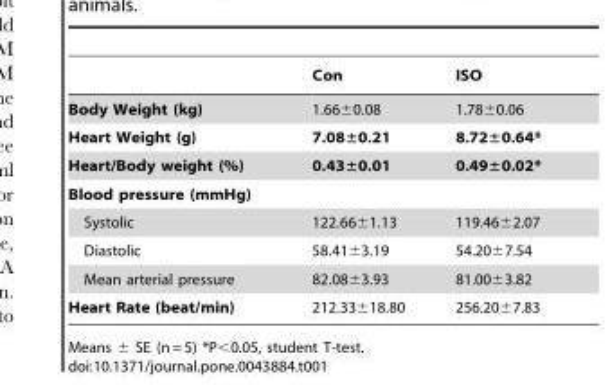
<table><thead><tr><td></td><td>Con</td><td>ISO</td></tr></thead><tbody><tr><td>Body Weight (kg)</td><td>1.66±0.08</td><td>1.78±0.06</td></tr><tr><td>Heart Weight (g)</td><td>7.08±0.21</td><td>8.72±0.64*</td></tr><tr><td>Heart/Body weight (%)</td><td>0.43±0.01</td><td>0.49±0.02*</td></tr><tr><td colspan="3">Blood pressure (mmHg)</td></tr><tr><td>Systolic</td><td>122.66±1.13</td><td>119.46±2.07</td></tr><tr><td>Diastolic</td><td>58.41±3.19</td><td>54.20±7.54</td></tr><tr><td>Mean arterial pressure</td><td>82.08±3.93</td><td>81.00±3.82</td></tr><tr><td>Heart Rate (beat/min)</td><td>212.33±18.80</td><td>256.20±7.83</td></tr></tbody></table>